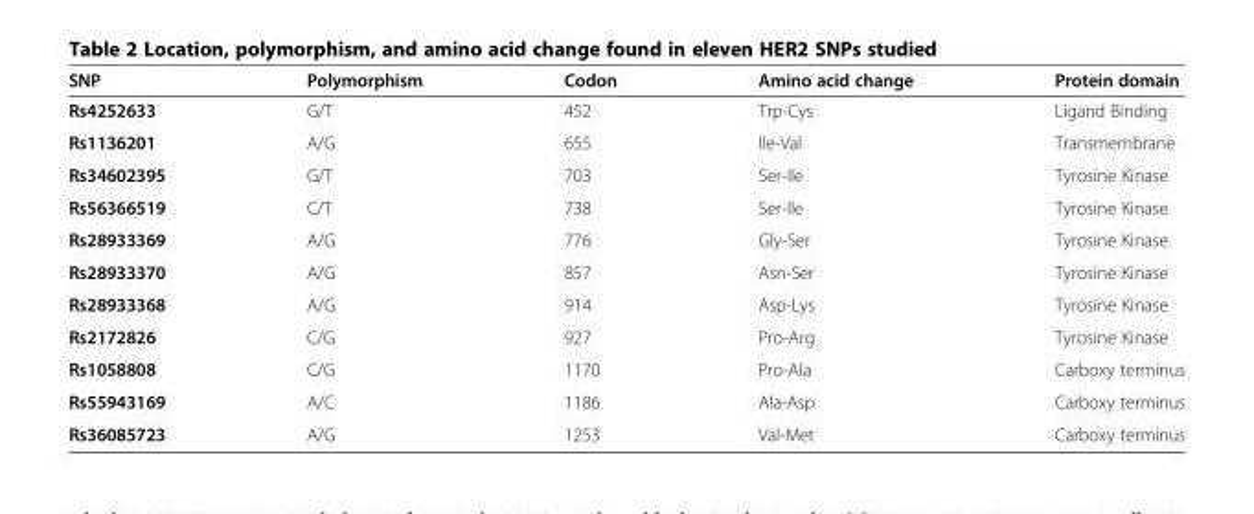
<table><thead><tr><td>SNP</td><td>Polymorphism</td><td>Codon</td><td>Amino acid change</td><td>Protein domain</td></tr></thead><tbody><tr><td>Rs4252633</td><td>G/T</td><td>452</td><td>Trp-Cys</td><td>Ligand Binding</td></tr><tr><td>Rs1136201</td><td>A/G</td><td>655</td><td>Ile-Val</td><td>Transmembrane</td></tr><tr><td>Rs34602395</td><td>G/T</td><td>703</td><td>Ser-Ile</td><td>Tyrosine Kinase</td></tr><tr><td>Rs56366519</td><td>C/T</td><td>738</td><td>Ser-Ile</td><td>Tyrosine Kinase</td></tr><tr><td>Rs28933369</td><td>A/G</td><td>776</td><td>Gly-Ser</td><td>Tyrosine Kinase</td></tr><tr><td>Rs28933370</td><td>A/G</td><td>857</td><td>Asn-Ser</td><td>Tyrosine Kinase</td></tr><tr><td>Rs28933368</td><td>A/G</td><td>914</td><td>Asp-Lys</td><td>Tyrosine Kinase</td></tr><tr><td>Rs2172826</td><td>C/G</td><td>927</td><td>Pro-Arg</td><td>Tyrosine Kinase</td></tr><tr><td>Rs1058808</td><td>C/G</td><td>1170</td><td>Pro-Ala</td><td>Carboxy terminus</td></tr><tr><td>Rs55943169</td><td>A/C</td><td>1186</td><td>Ala-Asp</td><td>Carboxy terminus</td></tr><tr><td>Rs36085723</td><td>A/G</td><td>1253</td><td>Val-Met</td><td>Carboxy terminus</td></tr></tbody></table>